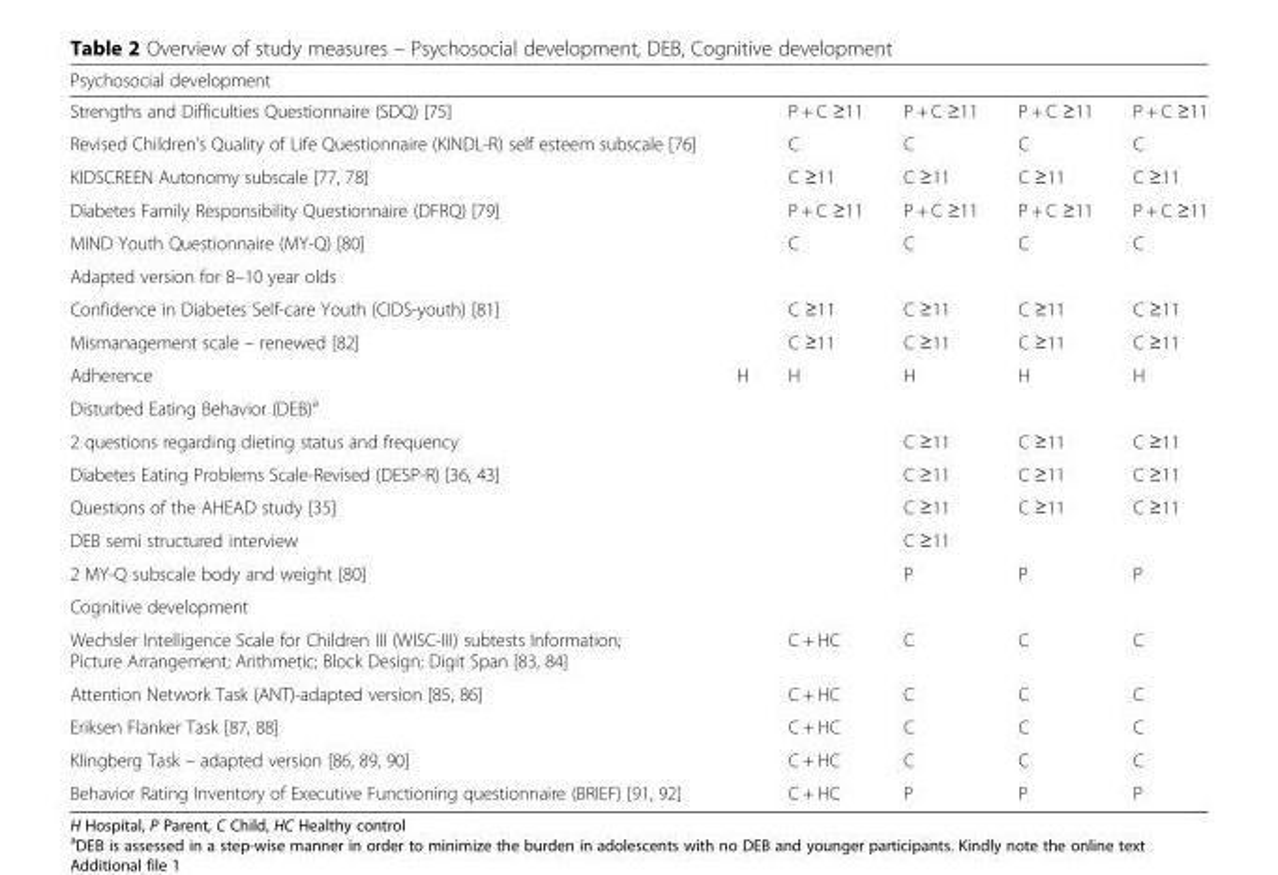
<table><thead><tr><td colspan="6">Psychosocial development</td></tr><tr><td>Strengths and Difficulties Questionnaire (SDQ) [75]</td><td></td><td>P + C ≥11</td><td>P + C ≥11</td><td>P + C ≥11</td><td>P + C ≥11</td></tr></thead><tbody><tr><td>Revised Children’s Quality of Life Questionnaire (KINDL-R) self esteem subscale [76]</td><td></td><td>C</td><td>C</td><td>C</td><td>C</td></tr><tr><td>KIDSCREEN Autonomy subscale [77, 78]</td><td></td><td>C ≥11</td><td>C ≥11</td><td>C ≥11</td><td>C ≥11</td></tr><tr><td>Diabetes Family Responsibility Questionnaire (DFRQ) [79]</td><td></td><td>P + C ≥11</td><td>P + C ≥11</td><td>P + C ≥11</td><td>P + C ≥11</td></tr><tr><td>MIND Youth Questionnaire (MY-Q) [80]</td><td rowspan="2"></td><td rowspan="2">C</td><td rowspan="2">C</td><td rowspan="2">C</td><td rowspan="2">C</td></tr><tr><td>Adapted version for 8–10 year olds</td></tr><tr><td>Confidence in Diabetes Self-care Youth (CIDS-youth) [81]</td><td></td><td>C ≥11</td><td>C ≥11</td><td>C ≥11</td><td>C ≥11</td></tr><tr><td>Mismanagement scale – renewed [82]</td><td></td><td>C ≥11</td><td>C ≥11</td><td>C ≥11</td><td>C ≥11</td></tr><tr><td>Adherence</td><td>H</td><td>H</td><td>H</td><td>H</td><td>H</td></tr><tr><td colspan="6">Disturbed Eating Behavior (DEB)<sup>a</sup></td></tr><tr><td>2 questions regarding dieting status and frequency</td><td></td><td></td><td>C ≥11</td><td>C ≥11</td><td>C ≥11</td></tr><tr><td>Diabetes Eating Problems Scale-Revised (DESP-R) [36, 43]</td><td></td><td></td><td>C ≥11</td><td>C ≥11</td><td>C ≥11</td></tr><tr><td>Questions of the AHEAD study [35]</td><td></td><td></td><td>C ≥11</td><td>C ≥11</td><td>C ≥11</td></tr><tr><td>DEB semi structured interview</td><td></td><td></td><td>C ≥11</td><td></td><td></td></tr><tr><td>2 MY-Q subscale body and weight [80]</td><td></td><td></td><td>P</td><td>P</td><td>P</td></tr><tr><td colspan="6">Cognitive development</td></tr><tr><td>Wechsler Intelligence Scale for Children III (WISC-III) subtests Information; Picture Arrangement; Arithmetic; Block Design; Digit Span [83, 84]</td><td></td><td>C + HC</td><td>C</td><td>C</td><td>C</td></tr><tr><td>Attention Network Task (ANT)-adapted version [85, 86]</td><td></td><td>C + HC</td><td>C</td><td>C</td><td>C</td></tr><tr><td>Eriksen Flanker Task [87, 88]</td><td></td><td>C + HC</td><td>C</td><td>C</td><td>C</td></tr><tr><td>Klingberg Task – adapted version [86, 89, 90]</td><td></td><td>C + HC</td><td>C</td><td>C</td><td>C</td></tr><tr><td>Behavior Rating Inventory of Executive Functioning questionnaire (BRIEF) [91, 92]</td><td></td><td>C + HC</td><td>P</td><td>P</td><td>P</td></tr></tbody></table>